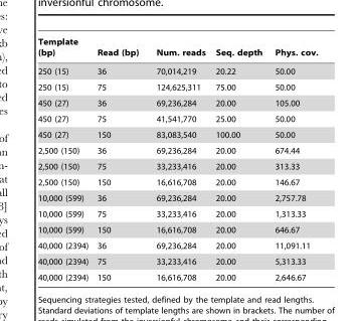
<table><thead><tr><td>Template (bp)</td><td>Read (bp)</td><td>Num. reads</td><td>Seq. depth</td><td>Phys. cov.</td></tr></thead><tbody><tr><td>250 (15)</td><td>36</td><td>70,014,219</td><td>20.22</td><td>50.00</td></tr><tr><td>250 (15)</td><td>75</td><td>124,625,311</td><td>75.00</td><td>50.00</td></tr><tr><td>450 (27)</td><td>36</td><td>69,236,284</td><td>20.00</td><td>105.00</td></tr><tr><td>450 (27)</td><td>75</td><td>41,541,770</td><td>25.00</td><td>50.00</td></tr><tr><td>450 (27)</td><td>150</td><td>83,083,540</td><td>100.00</td><td>50.00</td></tr><tr><td>2,500 (150)</td><td>36</td><td>69,236,284</td><td>20.00</td><td>674.44</td></tr><tr><td>2,500 (150)</td><td>75</td><td>33,233,416</td><td>20.00</td><td>313.33</td></tr><tr><td>2,500 (150)</td><td>150</td><td>16,616,708</td><td>20.00</td><td>146.67</td></tr><tr><td>10,000 (599)</td><td>36</td><td>69,236,284</td><td>20.00</td><td>2,757.78</td></tr><tr><td>10,000 (599)</td><td>75</td><td>33,233,416</td><td>20.00</td><td>1,313.33</td></tr><tr><td>10,000 (599)</td><td>150</td><td>16,616,708</td><td>20.00</td><td>646.67</td></tr><tr><td>40,000 (2394)</td><td>36</td><td>69,236,284</td><td>20.00</td><td>11,091.11</td></tr><tr><td>40,000 (2394)</td><td>75</td><td>33,233,416</td><td>20.00</td><td>5,313.33</td></tr><tr><td>40,000 (2394)</td><td>150</td><td>16,616,708</td><td>20.00</td><td>2,646.67</td></tr></tbody></table>